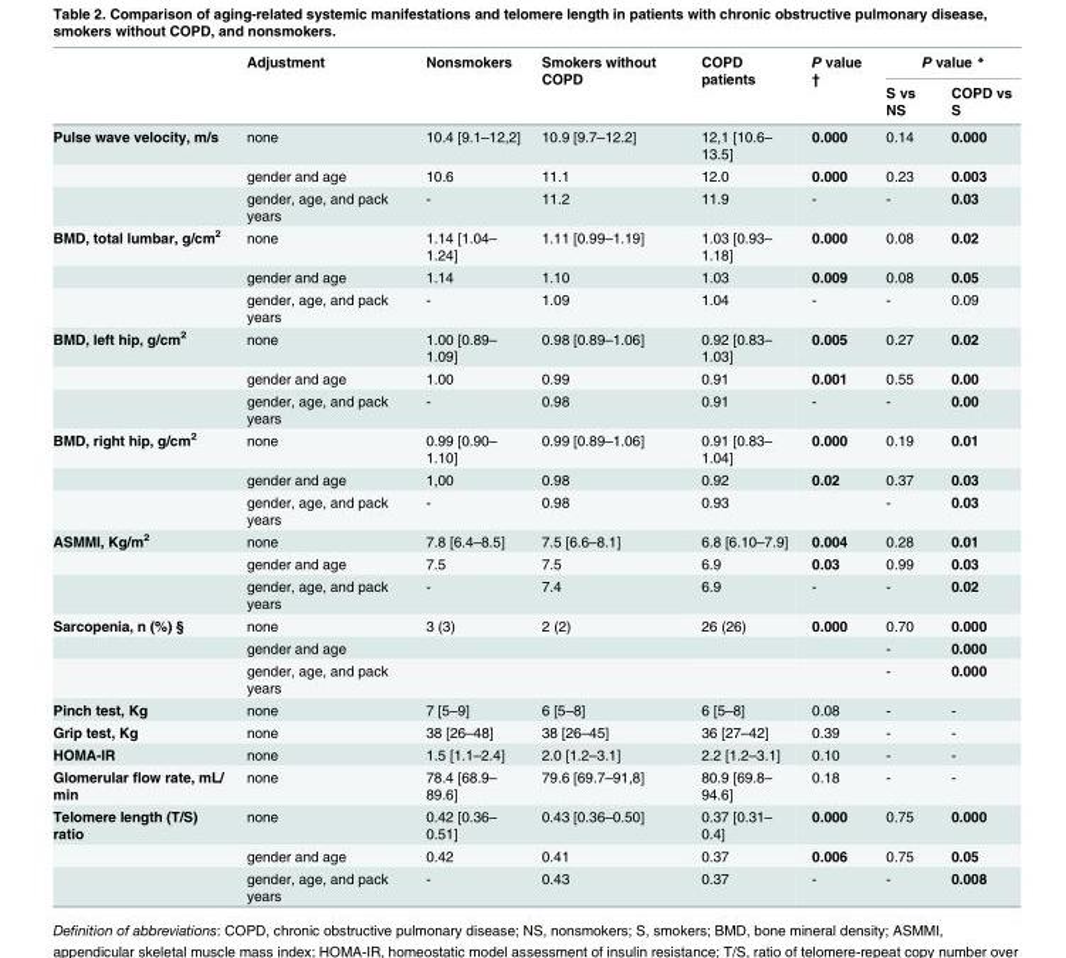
<table><thead><tr><td rowspan="2"></td><td rowspan="2">Adjustment</td><td rowspan="2">Nonsmokers</td><td rowspan="2">Smokers without COPD</td><td rowspan="2">COPD patients</td><td rowspan="2">P value †</td><td colspan="2">P value *</td></tr><tr><td>S vs NS</td><td>COPD vs S</td></tr></thead><tbody><tr><td rowspan="3">Pulse wave velocity, m/s</td><td>none</td><td>10.4 [9.1–12,2]</td><td>10.9 [9.7–12.2]</td><td>12,1 [10.6– 13.5]</td><td>0.000</td><td>0.14</td><td>0.000</td></tr><tr><td>gender and age</td><td>10.6</td><td>11.1</td><td>12.0</td><td>0.000</td><td>0.23</td><td>0.003</td></tr><tr><td>gender, age, and pack years</td><td>-</td><td>11.2</td><td>11.9</td><td>-</td><td>-</td><td>0.03</td></tr><tr><td rowspan="3">BMD, total lumbar, g/cm<sup>2</sup></td><td>none</td><td>1.14 [1.04– 1.24]</td><td>1.11 [0.99–1.19]</td><td>1.03 [0.93– 1.18]</td><td>0.000</td><td>0.08</td><td>0.02</td></tr><tr><td>gender and age</td><td>1.14</td><td>1.10</td><td>1.03</td><td>0.009</td><td>0.08</td><td>0.05</td></tr><tr><td>gender, age, and pack years</td><td>-</td><td>1.09</td><td>1.04</td><td>-</td><td>-</td><td>0.09</td></tr><tr><td rowspan="3">BMD, left hip, g/cm<sup>2</sup></td><td>none</td><td>1.00 [0.89– 1.09]</td><td>0.98 [0.89–1.06]</td><td>0.92 [0.83– 1.03]</td><td>0.005</td><td>0.27</td><td>0.02</td></tr><tr><td>gender and age</td><td>1.00</td><td>0.99</td><td>0.91</td><td>0.001</td><td>0.55</td><td>0.00</td></tr><tr><td>gender, age, and pack years</td><td>-</td><td>0.98</td><td>0.91</td><td>-</td><td>-</td><td>0.00</td></tr><tr><td rowspan="3">BMD, right hip, g/cm<sup>2</sup></td><td>none</td><td>0.99 [0.90– 1.10]</td><td>0.99 [0.89–1.06]</td><td>0.91 [0.83– 1.04]</td><td>0.000</td><td>0.19</td><td>0.01</td></tr><tr><td>gender and age</td><td>1,00</td><td>0.98</td><td>0.92</td><td>0.02</td><td>0.37</td><td>0.03</td></tr><tr><td>gender, age, and pack years</td><td>-</td><td>0.98</td><td>0.93</td><td></td><td>-</td><td>0.03</td></tr><tr><td rowspan="3">ASMMI, Kg/m<sup>2</sup></td><td>none</td><td>7.8 [6.4–8.5]</td><td>7.5 [6.6–8.1]</td><td>6.8 [6.10–7.9]</td><td>0.004</td><td>0.28</td><td>0.01</td></tr><tr><td>gender and age</td><td>7.5</td><td>7.5</td><td>6.9</td><td>0.03</td><td>0.99</td><td>0.03</td></tr><tr><td>gender, age, and pack years</td><td>-</td><td>7.4</td><td>6.9</td><td>-</td><td>-</td><td>0.02</td></tr><tr><td rowspan="3">Sarcopenia, n (%) §</td><td>none</td><td>3 (3)</td><td>2 (2)</td><td>26 (26)</td><td>0.000</td><td>0.70</td><td>0.000</td></tr><tr><td>gender and age</td><td></td><td></td><td></td><td></td><td>-</td><td>0.000</td></tr><tr><td>gender, age, and pack years</td><td></td><td></td><td></td><td></td><td>-</td><td>0.000</td></tr><tr><td>Pinch test, Kg</td><td>none</td><td>7 [5–9]</td><td>6 [5–8]</td><td>6 [5–8]</td><td>0.08</td><td>-</td><td>-</td></tr><tr><td>Grip test, Kg</td><td>none</td><td>38 [26–48]</td><td>38 [26–45]</td><td>36 [27–42]</td><td>0.39</td><td>-</td><td>-</td></tr><tr><td>HOMA-IR</td><td>none</td><td>1.5 [1.1–2.4]</td><td>2.0 [1.2–3.1]</td><td>2.2 [1.2–3.1]</td><td>0.10</td><td>-</td><td>-</td></tr><tr><td>Glomerular flow rate, mL/ min</td><td>none</td><td>78.4 [68.9– 89.6]</td><td>79.6 [69.7–91,8]</td><td>80.9 [69.8– 94.6]</td><td>0.18</td><td>-</td><td>-</td></tr><tr><td rowspan="3">Telomere length (T/S) ratio</td><td>none</td><td>0.42 [0.36– 0.51]</td><td>0.43 [0.36–0.50]</td><td>0.37 [0.31– 0.4]</td><td>0.000</td><td>0.75</td><td>0.000</td></tr><tr><td>gender and age</td><td>0.42</td><td>0.41</td><td>0.37</td><td>0.006</td><td>0.75</td><td>0.05</td></tr><tr><td>gender, age, and pack years</td><td>-</td><td>0.43</td><td>0.37</td><td>-</td><td>-</td><td>0.008</td></tr></tbody></table>